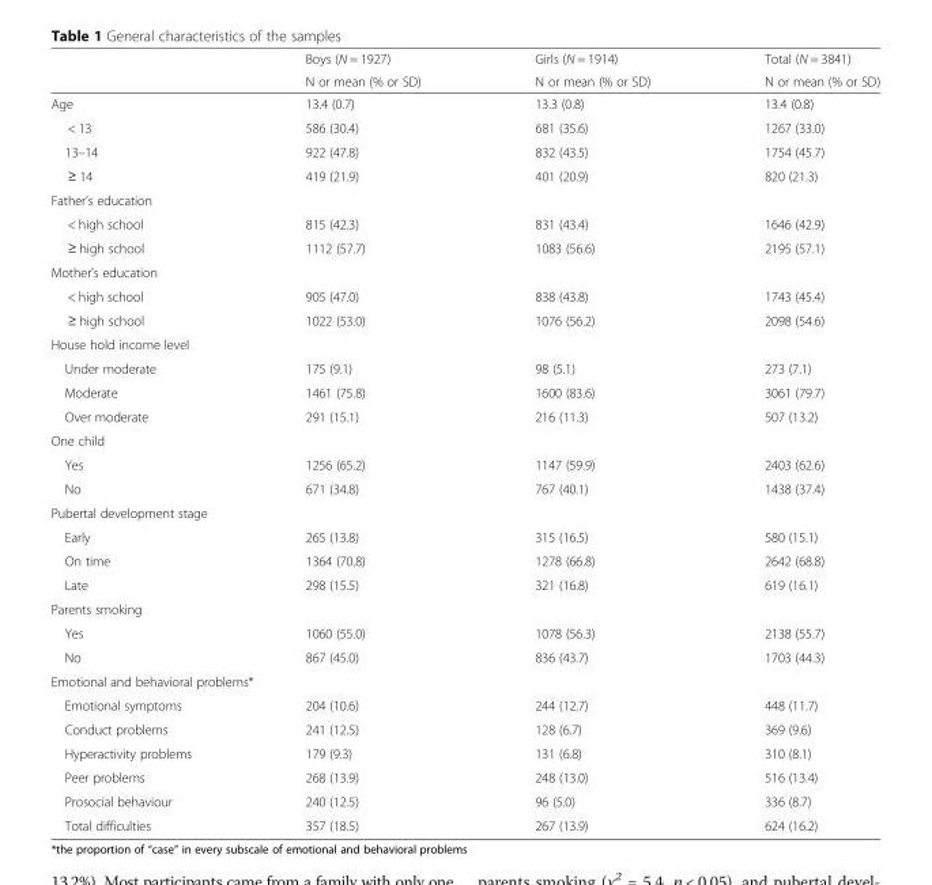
<table><thead><tr><td rowspan="2"></td><td rowspan="2">Boys (N = 1927) N or mean (% or SD)</td><td rowspan="2">Girls (N = 1914) N or mean (% or SD)</td><td rowspan="2">Total (N = 3841) N or mean (% or SD)</td></tr><tr></tr></thead><tbody><tr><td>Age</td><td>13.4 (0.7)</td><td>13.3 (0.8)</td><td>13.4 (0.8)</td></tr><tr><td>&lt; 13</td><td>586 (30.4)</td><td>681 (35.6)</td><td>1267 (33.0)</td></tr><tr><td>13–14</td><td>922 (47.8)</td><td>832 (43.5)</td><td>1754 (45.7)</td></tr><tr><td>≥ 14</td><td>419 (21.9)</td><td>401 (20.9)</td><td>820 (21.3)</td></tr><tr><td colspan="4">Father’s education</td></tr><tr><td>&lt; high school</td><td>815 (42.3)</td><td>831 (43.4)</td><td>1646 (42.9)</td></tr><tr><td>≥ high school</td><td>1112 (57.7)</td><td>1083 (56.6)</td><td>2195 (57.1)</td></tr><tr><td colspan="4">Mother’s education</td></tr><tr><td>&lt; high school</td><td>905 (47.0)</td><td>838 (43.8)</td><td>1743 (45.4)</td></tr><tr><td>≥ high school</td><td>1022 (53.0)</td><td>1076 (56.2)</td><td>2098 (54.6)</td></tr><tr><td colspan="4">House hold income level</td></tr><tr><td>Under moderate</td><td>175 (9.1)</td><td>98 (5.1)</td><td>273 (7.1)</td></tr><tr><td>Moderate</td><td>1461 (75.8)</td><td>1600 (83.6)</td><td>3061 (79.7)</td></tr><tr><td>Over moderate</td><td>291 (15.1)</td><td>216 (11.3)</td><td>507 (13.2)</td></tr><tr><td colspan="4">One child</td></tr><tr><td>Yes</td><td>1256 (65.2)</td><td>1147 (59.9)</td><td>2403 (62.6)</td></tr><tr><td>No</td><td>671 (34.8)</td><td>767 (40.1)</td><td>1438 (37.4)</td></tr><tr><td colspan="4">Pubertal development stage</td></tr><tr><td>Early</td><td>265 (13.8)</td><td>315 (16.5)</td><td>580 (15.1)</td></tr><tr><td>On time</td><td>1364 (70.8)</td><td>1278 (66.8)</td><td>2642 (68.8)</td></tr><tr><td>Late</td><td>298 (15.5)</td><td>321 (16.8)</td><td>619 (16.1)</td></tr><tr><td colspan="4">Parents smoking</td></tr><tr><td>Yes</td><td>1060 (55.0)</td><td>1078 (56.3)</td><td>2138 (55.7)</td></tr><tr><td>No</td><td>867 (45.0)</td><td>836 (43.7)</td><td>1703 (44.3)</td></tr><tr><td colspan="4">Emotional and behavioral problems*</td></tr><tr><td>Emotional symptoms</td><td>204 (10.6)</td><td>244 (12.7)</td><td>448 (11.7)</td></tr><tr><td>Conduct problems</td><td>241 (12.5)</td><td>128 (6.7)</td><td>369 (9.6)</td></tr><tr><td>Hyperactivity problems</td><td>179 (9.3)</td><td>131 (6.8)</td><td>310 (8.1)</td></tr><tr><td>Peer problems</td><td>268 (13.9)</td><td>248 (13.0)</td><td>516 (13.4)</td></tr><tr><td>Prosocial behaviour</td><td>240 (12.5)</td><td>96 (5.0)</td><td>336 (8.7)</td></tr><tr><td>Total difficulties</td><td>357 (18.5)</td><td>267 (13.9)</td><td>624 (16.2)</td></tr></tbody></table>